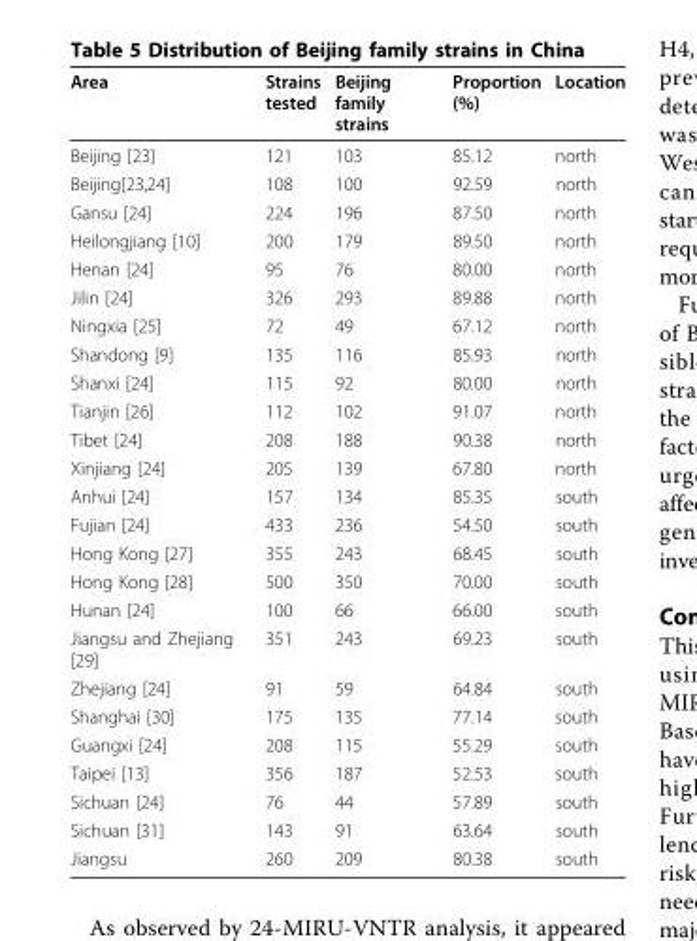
<table><thead><tr><td>Area</td><td>Strains tested</td><td>Beijing family strains</td><td>Proportion (%)</td><td>Location</td></tr></thead><tbody><tr><td>Beijing [23]</td><td>121</td><td>103</td><td>85.12</td><td>north</td></tr><tr><td>Beijing[23,24]</td><td>108</td><td>100</td><td>92.59</td><td>north</td></tr><tr><td>Gansu [24]</td><td>224</td><td>196</td><td>87.50</td><td>north</td></tr><tr><td>Heilongjiang [10]</td><td>200</td><td>179</td><td>89.50</td><td>north</td></tr><tr><td>Henan [24]</td><td>95</td><td>76</td><td>80.00</td><td>north</td></tr><tr><td>Jilin [24]</td><td>326</td><td>293</td><td>89.88</td><td>north</td></tr><tr><td>Ningxia [25]</td><td>72</td><td>49</td><td>67.12</td><td>north</td></tr><tr><td>Shandong [9]</td><td>135</td><td>116</td><td>85.93</td><td>north</td></tr><tr><td>Shanxi [24]</td><td>115</td><td>92</td><td>80.00</td><td>north</td></tr><tr><td>Tianjin [26]</td><td>112</td><td>102</td><td>91.07</td><td>north</td></tr><tr><td>Tibet [24]</td><td>208</td><td>188</td><td>90.38</td><td>north</td></tr><tr><td>Xinjiang [24]</td><td>205</td><td>139</td><td>67.80</td><td>north</td></tr><tr><td>Anhui [24]</td><td>157</td><td>134</td><td>85.35</td><td>south</td></tr><tr><td>Fujian [24]</td><td>433</td><td>236</td><td>54.50</td><td>south</td></tr><tr><td>Hong Kong [27]</td><td>355</td><td>243</td><td>68.45</td><td>south</td></tr><tr><td>Hong Kong [28]</td><td>500</td><td>350</td><td>70.00</td><td>south</td></tr><tr><td>Hunan [24]</td><td>100</td><td>66</td><td>66.00</td><td>south</td></tr><tr><td>Jiangsu and Zhejiang [29]</td><td>351</td><td>243</td><td>69.23</td><td>south</td></tr><tr><td>Zhejiang [24]</td><td>91</td><td>59</td><td>64.84</td><td>south</td></tr><tr><td>Shanghai [30]</td><td>175</td><td>135</td><td>77.14</td><td>south</td></tr><tr><td>Guangxi [24]</td><td>208</td><td>115</td><td>55.29</td><td>south</td></tr><tr><td>Taipei [13]</td><td>356</td><td>187</td><td>52.53</td><td>south</td></tr><tr><td>Sichuan [24]</td><td>76</td><td>44</td><td>57.89</td><td>south</td></tr><tr><td>Sichuan [31]</td><td>143</td><td>91</td><td>63.64</td><td>south</td></tr><tr><td>Jiangsu</td><td>260</td><td>209</td><td>80.38</td><td>south</td></tr></tbody></table>